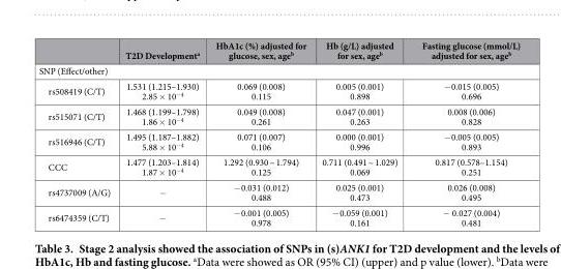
<table><thead><tr><td></td><td>T2D Development<sup>a</sup></td><td>HbA1c (%) adjusted for glucose, sex, age<sup>b</sup></td><td>Hb (g/L) adjusted for sex, age<sup>b</sup></td><td>Fasting glucose (mmol/L) adjusted for sex, age<sup>b</sup></td></tr></thead><tbody><tr><td colspan="5">SNP (Effect/other)</td></tr><tr><td>rs508419 (C/T)</td><td>1.531 (1.215–1.930) 2.85 × 10<sup>−4</sup></td><td>0.069 (0.008) 0.115</td><td>0.005 (0.001) 0.898</td><td>−0.015 (0.005) 0.696</td></tr><tr><td>rs515071 (C/T)</td><td>1.468 (1.199–1.798) 1.86 × 10<sup>−4</sup></td><td>0.049 (0.008) 0.261</td><td>0.047 (0.001) 0.263</td><td>0.008 (0.006) 0.828</td></tr><tr><td>rs516946 (C/T)</td><td>1.495 (1.187–1.882) 5.88 × 10<sup>−4</sup></td><td>0.071 (0.007) 0.106</td><td>0.000 (0.001) 0.996</td><td>−0.005 (0.005) 0.893</td></tr><tr><td>CCC</td><td>1.477 (1.203–1.814) 1.87 × 10<sup>−4</sup></td><td>1.292 (0.930 ~ 1.794) 0.125</td><td>0.711 (0.491 ~ 1.029) 0.069</td><td>0.817 (0.578–1.154) 0.251</td></tr><tr><td>rs4737009 (A/G)</td><td>−</td><td>− 0.031 (0.012) 0.488</td><td>0.025 (0.001) 0.473</td><td>0.026 (0.008) 0.495</td></tr><tr><td>rs6474359 (C/T)</td><td>−</td><td>− 0.001 (0.005) 0.978</td><td>− 0.059 (0.001) 0.161</td><td>− 0.027 (0.004) 0.481</td></tr></tbody></table>